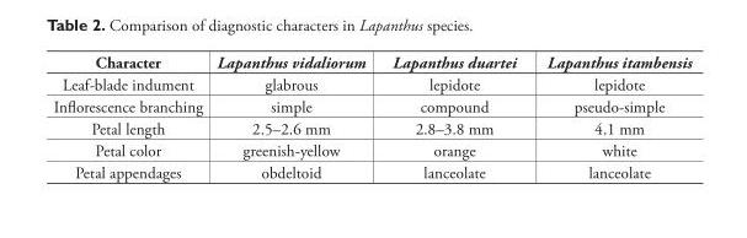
<table><thead><tr><td>Character</td><td>Lapanthus vidaliorum</td><td>Lapanthus duartei</td><td>Lapanthus itambensis</td></tr></thead><tbody><tr><td>Leaf-blade indument</td><td>glabrous</td><td>lepidote</td><td>lepidote</td></tr><tr><td>Infl orescence branching</td><td>simple</td><td>compound</td><td>pseudo-simple</td></tr><tr><td>Petal length</td><td>2.5–2.6 mm</td><td>2.8–3.8 mm</td><td>4.1 mm</td></tr><tr><td>Petal color</td><td>greenish-yellow</td><td>orange</td><td>white</td></tr><tr><td>Petal appendages</td><td>obdeltoid</td><td>lanceolate</td><td>lanceolate</td></tr></tbody></table>